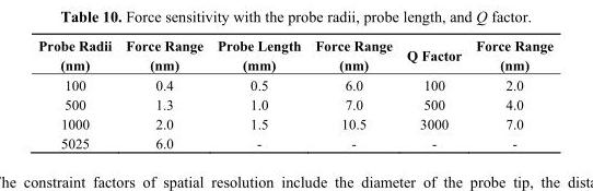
<table><thead><tr><td>Probe Radii (nm)</td><td>Force Range (nm)</td><td>Probe Length (mm)</td><td>Force Range (nm)</td><td>Q Factor</td><td>Force Range (nm)</td></tr></thead><tbody><tr><td>100</td><td>0.4</td><td>0.5</td><td>6.0</td><td>100</td><td>2.0</td></tr><tr><td>500</td><td>1.3</td><td>1.0</td><td>7.0</td><td>500</td><td>4.0</td></tr><tr><td>1000</td><td>2.0</td><td>1.5</td><td>10.5</td><td>3000</td><td>7.0</td></tr><tr><td>5025</td><td>6.0</td><td>-</td><td>-</td><td>-</td><td>-</td></tr></tbody></table>